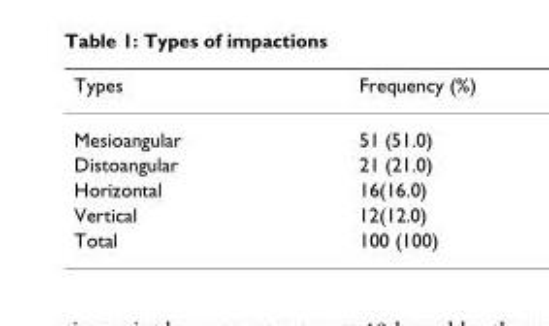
<table><thead><tr><td>Types</td><td>Frequency (%)</td></tr></thead><tbody><tr><td>Mesioangular</td><td>51 (51.0)</td></tr><tr><td>Distoangular</td><td>21 (21.0)</td></tr><tr><td>Horizontal</td><td>16(16.0)</td></tr><tr><td>Vertical</td><td>12(12.0)</td></tr><tr><td>Total</td><td>100 (100)</td></tr></tbody></table>